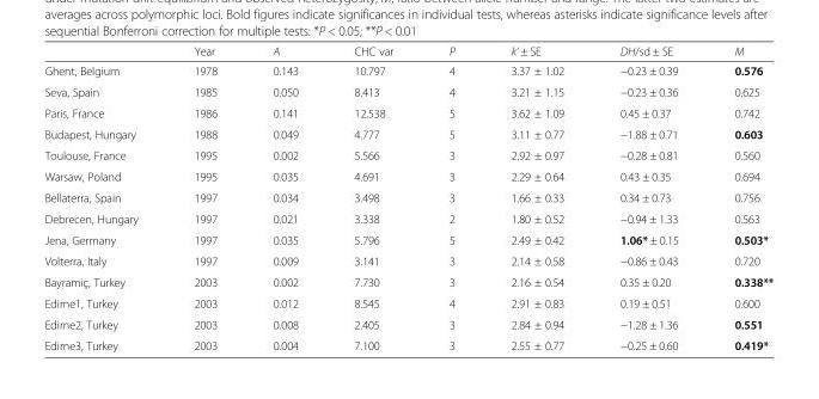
<table><thead><tr><td></td><td>Year</td><td>A</td><td>CHC var</td><td>P</td><td>k’ ± SE</td><td>DH/sd ± SE</td><td>M</td></tr></thead><tbody><tr><td>Ghent, Belgium</td><td>1978</td><td>0.143</td><td>10.797</td><td>4</td><td>3.37 ± 1.02</td><td>−0.23 ± 0.39</td><td>0.576</td></tr><tr><td>Seva, Spain</td><td>1985</td><td>0.050</td><td>8.413</td><td>4</td><td>3.21 ± 1.15</td><td>−0.23 ± 0.36</td><td>0.625</td></tr><tr><td>Paris, France</td><td>1986</td><td>0.141</td><td>12.538</td><td>5</td><td>3.62 ± 1.09</td><td>0.45 ± 0.37</td><td>0.742</td></tr><tr><td>Budapest, Hungary</td><td>1988</td><td>0.049</td><td>4.777</td><td>5</td><td>3.11 ± 0.77</td><td>−1.88 ± 0.71</td><td>0.603</td></tr><tr><td>Toulouse, France</td><td>1995</td><td>0.002</td><td>5.566</td><td>3</td><td>2.92 ± 0.97</td><td>−0.28 ± 0.81</td><td>0.560</td></tr><tr><td>Warsaw, Poland</td><td>1995</td><td>0.035</td><td>4.691</td><td>3</td><td>2.29 ± 0.64</td><td>0.43 ± 0.35</td><td>0.694</td></tr><tr><td>Bellaterra, Spain</td><td>1997</td><td>0.034</td><td>3.498</td><td>3</td><td>1.66 ± 0.33</td><td>0.34 ± 0.73</td><td>0.756</td></tr><tr><td>Debrecen, Hungary</td><td>1997</td><td>0.021</td><td>3.338</td><td>2</td><td>1.80 ± 0.52</td><td>−0.94 ± 1.33</td><td>0.563</td></tr><tr><td>Jena, Germany</td><td>1997</td><td>0.035</td><td>5.796</td><td>5</td><td>2.49 ± 0.42</td><td>1.06* ± 0.15</td><td>0.503*</td></tr><tr><td>Volterra, Italy</td><td>1997</td><td>0.009</td><td>3.141</td><td>3</td><td>2.14 ± 0.58</td><td>−0.86 ± 0.43</td><td>0.720</td></tr><tr><td>Bayramiç, Turkey</td><td>2003</td><td>0.002</td><td>7.730</td><td>3</td><td>2.16 ± 0.54</td><td>0.35 ± 0.20</td><td>0.338**</td></tr><tr><td>Edirne1, Turkey</td><td>2003</td><td>0.012</td><td>8.545</td><td>4</td><td>2.91 ± 0.83</td><td>0.19 ± 0.51</td><td>0.600</td></tr><tr><td>Edirne2, Turkey</td><td>2003</td><td>0.008</td><td>2.405</td><td>3</td><td>2.84 ± 0.94</td><td>−1.28 ± 1.36</td><td>0.551</td></tr><tr><td>Edirne3, Turkey</td><td>2003</td><td>0.004</td><td>7.100</td><td>3</td><td>2.55 ± 0.77</td><td>−0.25 ± 0.60</td><td>0.419*</td></tr></tbody></table>